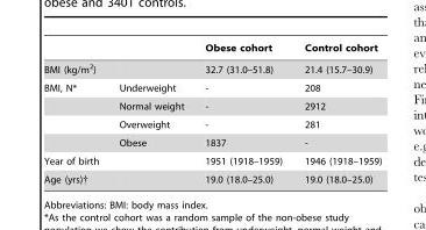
<table><thead><tr><td></td><td></td><td>Obese cohort</td><td>Control cohort</td></tr></thead><tbody><tr><td>BMI (kg/m<sup>2</sup>)</td><td></td><td>32.7 (31.0–51.8)</td><td>21.4 (15.7–30.9)</td></tr><tr><td rowspan="4">BMI, N*</td><td>Underweight</td><td>-</td><td>208</td></tr><tr><td>Normal weight</td><td>-</td><td>2912</td></tr><tr><td>Overweight</td><td>-</td><td>281</td></tr><tr><td>Obese</td><td>1837</td><td>-</td></tr><tr><td>Year of birth</td><td></td><td>1951 (1918–1959)</td><td>1946 (1918–1959)</td></tr><tr><td>Age (yrs)†</td><td></td><td>19.0 (18.0–25.0)</td><td>19.0 (18.0–25.0)</td></tr></tbody></table>